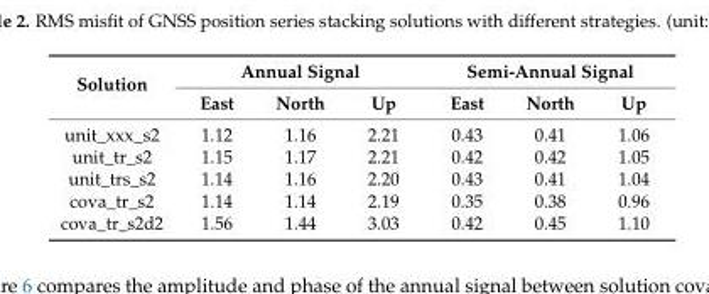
<table><thead><tr><td rowspan="2">Solution</td><td colspan="3">Annual Signal</td><td colspan="3">Semi-Annual Signal</td></tr><tr><td>East</td><td>North</td><td>Up</td><td>East</td><td>North</td><td>Up</td></tr></thead><tbody><tr><td>unit_xxx_s2</td><td>1.12</td><td>1.16</td><td>2.21</td><td>0.43</td><td>0.41</td><td>1.06</td></tr><tr><td>unit_tr_s2</td><td>1.15</td><td>1.17</td><td>2.21</td><td>0.42</td><td>0.42</td><td>1.05</td></tr><tr><td>unit_trs_s2</td><td>1.14</td><td>1.16</td><td>2.20</td><td>0.43</td><td>0.41</td><td>1.04</td></tr><tr><td>cova_tr_s2</td><td>1.14</td><td>1.14</td><td>2.19</td><td>0.35</td><td>0.38</td><td>0.96</td></tr><tr><td>cova_tr_s2d2</td><td>1.56</td><td>1.44</td><td>3.03</td><td>0.42</td><td>0.45</td><td>1.10</td></tr></tbody></table>